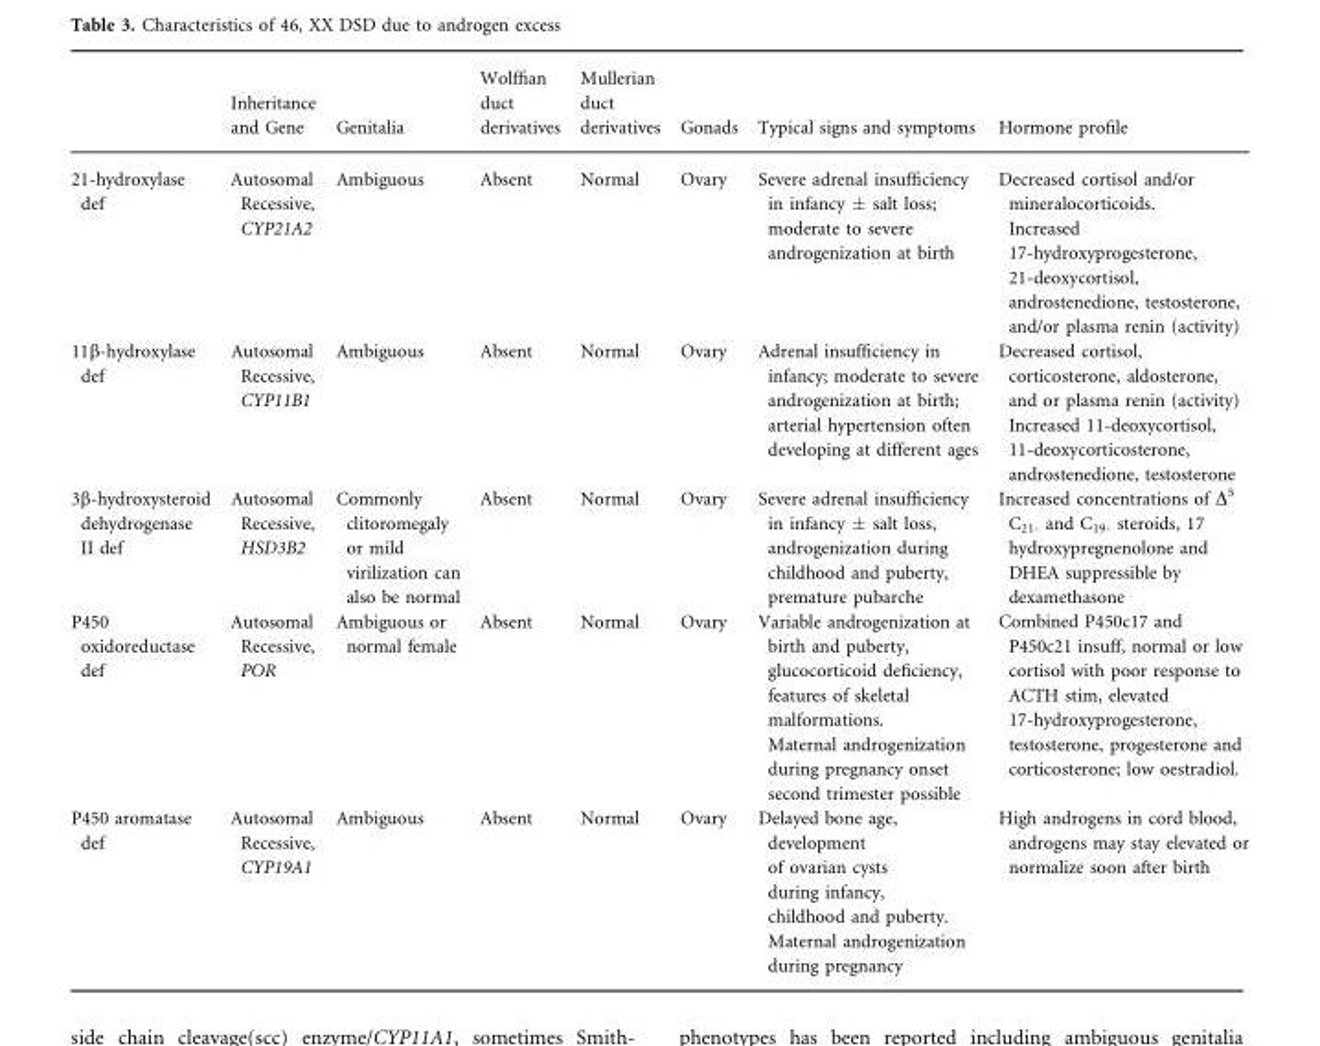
<table><thead><tr><td></td><td>Inheritance and Gene</td><td>Genitalia</td><td>Wolffian duct derivatives</td><td>Mullerian duct derivatives</td><td>Gonads</td><td>Typical signs and symptoms</td><td>Hormone profile</td></tr></thead><tbody><tr><td>21-hydroxylase def</td><td>Autosomal Recessive, CYP21A2</td><td>Ambiguous</td><td>Absent</td><td>Normal</td><td>Ovary</td><td>Severe adrenal insufficiency in infancy ± salt loss; moderate to severe androgenization at birth</td><td>Decreased cortisol and/or mineralocorticoids. Increased 17-hydroxyprogesterone, 21-deoxycortisol, androstenedione, testosterone, and/or plasma renin (activity)</td></tr><tr><td>11β-hydroxylase def</td><td>Autosomal Recessive, CYP11B1</td><td>Ambiguous</td><td>Absent</td><td>Normal</td><td>Ovary</td><td>Adrenal insufficiency in infancy; moderate to severe androgenization at birth; arterial hypertension often developing at different ages</td><td>Decreased cortisol, corticosterone, aldosterone, and or plasma renin (activity) Increased 11-deoxycortisol, 11-deoxycorticosterone, androstenedione, testosterone</td></tr><tr><td>3β-hydroxysteroid dehydrogenase II def</td><td>Autosomal Recessive, HSD3B2</td><td>Commonly clitoromegaly or mild virilization can also be normal</td><td>Absent</td><td>Normal</td><td>Ovary</td><td>Severe adrenal insufficiency in infancy ± salt loss, androgenization during childhood and puberty, premature pubarche</td><td>Increased concentrations of Δ<sup>5</sup> C<sub>21-</sub> and C<sub>19-</sub> steroids, 17 hydroxypregnenolone and DHEA suppressible by dexamethasone</td></tr><tr><td>P450 oxidoreductase def</td><td>Autosomal Recessive, POR</td><td>Ambiguous or normal female</td><td>Absent</td><td>Normal</td><td>Ovary</td><td>Variable androgenization at birth and puberty, glucocorticoid deficiency, features of skeletal malformations. Maternal androgenization during pregnancy onset second trimester possible</td><td>Combined P450c17 and P450c21 insuff, normal or low cortisol with poor response to ACTH stim, elevated 17-hydroxyprogesterone, testosterone, progesterone and corticosterone; low oestradiol.</td></tr><tr><td>P450 aromatase def</td><td>Autosomal Recessive, CYP19A1</td><td>Ambiguous</td><td>Absent</td><td>Normal</td><td>Ovary</td><td>Delayed bone age, development of ovarian cysts during infancy, childhood and puberty. Maternal androgenization during pregnancy</td><td>High androgens in cord blood, androgens may stay elevated or normalize soon after birth</td></tr></tbody></table>